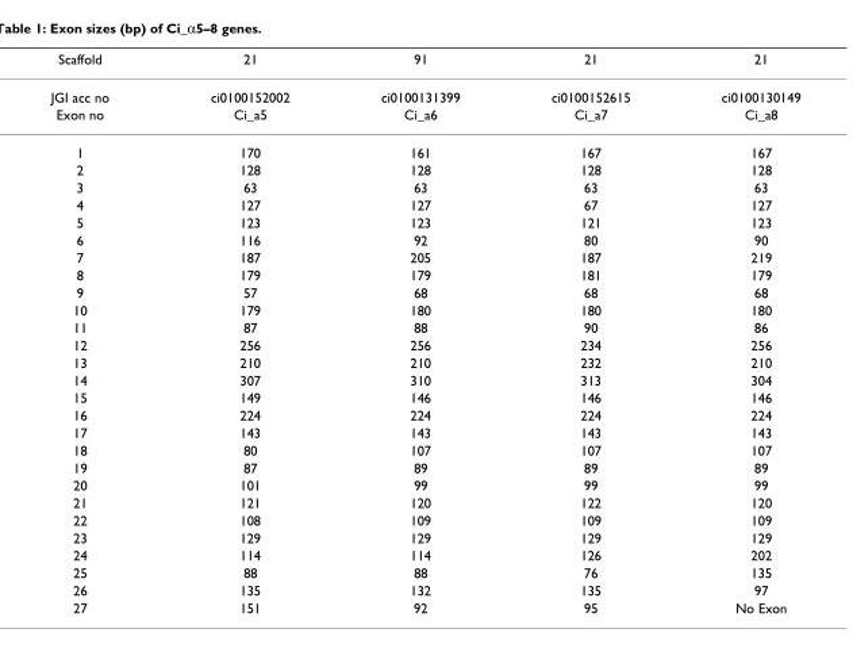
<table><thead><tr><td>Scaffold</td><td>21</td><td>91</td><td>21</td><td>21</td></tr></thead><tbody><tr><td>JGI acc no</td><td>ci0100152002</td><td>ci0100131399</td><td>ci0100152615</td><td>ci0100130149</td></tr><tr><td>Exon no</td><td>Ci_a5</td><td>Ci_a6</td><td>Ci_a7</td><td>Ci_a8</td></tr><tr><td>1</td><td>170</td><td>161</td><td>167</td><td>167</td></tr><tr><td>2</td><td>128</td><td>128</td><td>128</td><td>128</td></tr><tr><td>3</td><td>63</td><td>63</td><td>63</td><td>63</td></tr><tr><td>4</td><td>127</td><td>127</td><td>67</td><td>127</td></tr><tr><td>5</td><td>123</td><td>123</td><td>121</td><td>123</td></tr><tr><td>6</td><td>116</td><td>92</td><td>80</td><td>90</td></tr><tr><td>7</td><td>187</td><td>205</td><td>187</td><td>219</td></tr><tr><td>8</td><td>179</td><td>179</td><td>181</td><td>179</td></tr><tr><td>9</td><td>57</td><td>68</td><td>68</td><td>68</td></tr><tr><td>10</td><td>179</td><td>180</td><td>180</td><td>180</td></tr><tr><td>11</td><td>87</td><td>88</td><td>90</td><td>86</td></tr><tr><td>12</td><td>256</td><td>256</td><td>234</td><td>256</td></tr><tr><td>13</td><td>210</td><td>210</td><td>232</td><td>210</td></tr><tr><td>14</td><td>307</td><td>310</td><td>313</td><td>304</td></tr><tr><td>15</td><td>149</td><td>146</td><td>146</td><td>146</td></tr><tr><td>16</td><td>224</td><td>224</td><td>224</td><td>224</td></tr><tr><td>17</td><td>143</td><td>143</td><td>143</td><td>143</td></tr><tr><td>18</td><td>80</td><td>107</td><td>107</td><td>107</td></tr><tr><td>19</td><td>87</td><td>89</td><td>89</td><td>89</td></tr><tr><td>20</td><td>101</td><td>99</td><td>99</td><td>99</td></tr><tr><td>21</td><td>121</td><td>120</td><td>122</td><td>120</td></tr><tr><td>22</td><td>108</td><td>109</td><td>109</td><td>109</td></tr><tr><td>23</td><td>129</td><td>129</td><td>129</td><td>129</td></tr><tr><td>24</td><td>114</td><td>114</td><td>126</td><td>202</td></tr><tr><td>25</td><td>88</td><td>88</td><td>76</td><td>135</td></tr><tr><td>26</td><td>135</td><td>132</td><td>135</td><td>97</td></tr><tr><td>27</td><td>151</td><td>92</td><td>95</td><td>No Exon</td></tr></tbody></table>